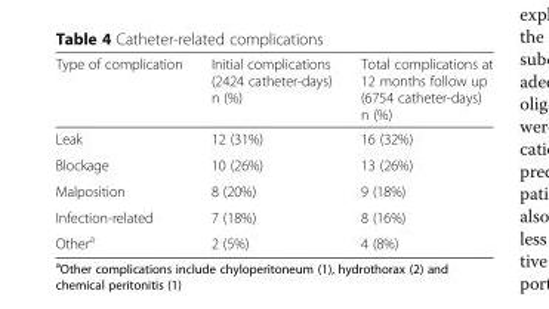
<table><thead><tr><td>Type of complication</td><td>Initial complications (2424 catheter-days) n (%)</td><td>Total complications at 12 months follow up (6754 catheter-days) n (%)</td></tr></thead><tbody><tr><td>Leak</td><td>12 (31%)</td><td>16 (32%)</td></tr><tr><td>Blockage</td><td>10 (26%)</td><td>13 (26%)</td></tr><tr><td>Malposition</td><td>8 (20%)</td><td>9 (18%)</td></tr><tr><td>Infection-related</td><td>7 (18%)</td><td>8 (16%)</td></tr><tr><td>Other<sup>a</sup></td><td>2 (5%)</td><td>4 (8%)</td></tr></tbody></table>